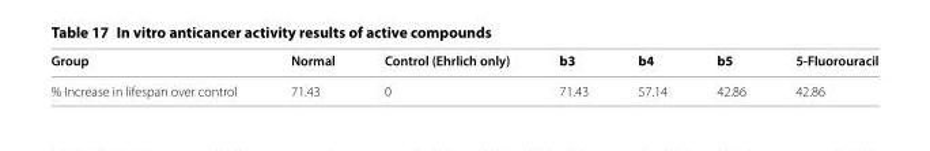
<table><thead><tr><td>Group</td><td>Normal</td><td>Control (Ehrlich only)</td><td>b3</td><td>b4</td><td>b5</td><td>5-Fluorouracil</td></tr></thead><tbody><tr><td>% Increase in lifespan over control</td><td>71.43</td><td>0</td><td>71.43</td><td>57.14</td><td>42.86</td><td>42.86</td></tr></tbody></table>